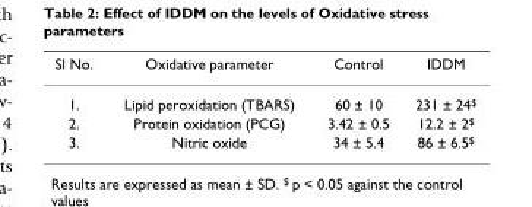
<table><thead><tr><td>Sl No.</td><td>Oxidative parameter</td><td>Control</td><td>IDDM</td></tr></thead><tbody><tr><td>1.</td><td>Lipid peroxidation (TBARS)</td><td>60 ± 10</td><td>231 ± 24<sup>$</sup></td></tr><tr><td>2.</td><td>Protein oxidation (PCG)</td><td>3.42 ± 0.5</td><td>12.2 ± 2<sup>$</sup></td></tr><tr><td>3.</td><td>Nitric oxide</td><td>34 ± 5.4</td><td>86 ± 6.5<sup>$</sup></td></tr></tbody></table>